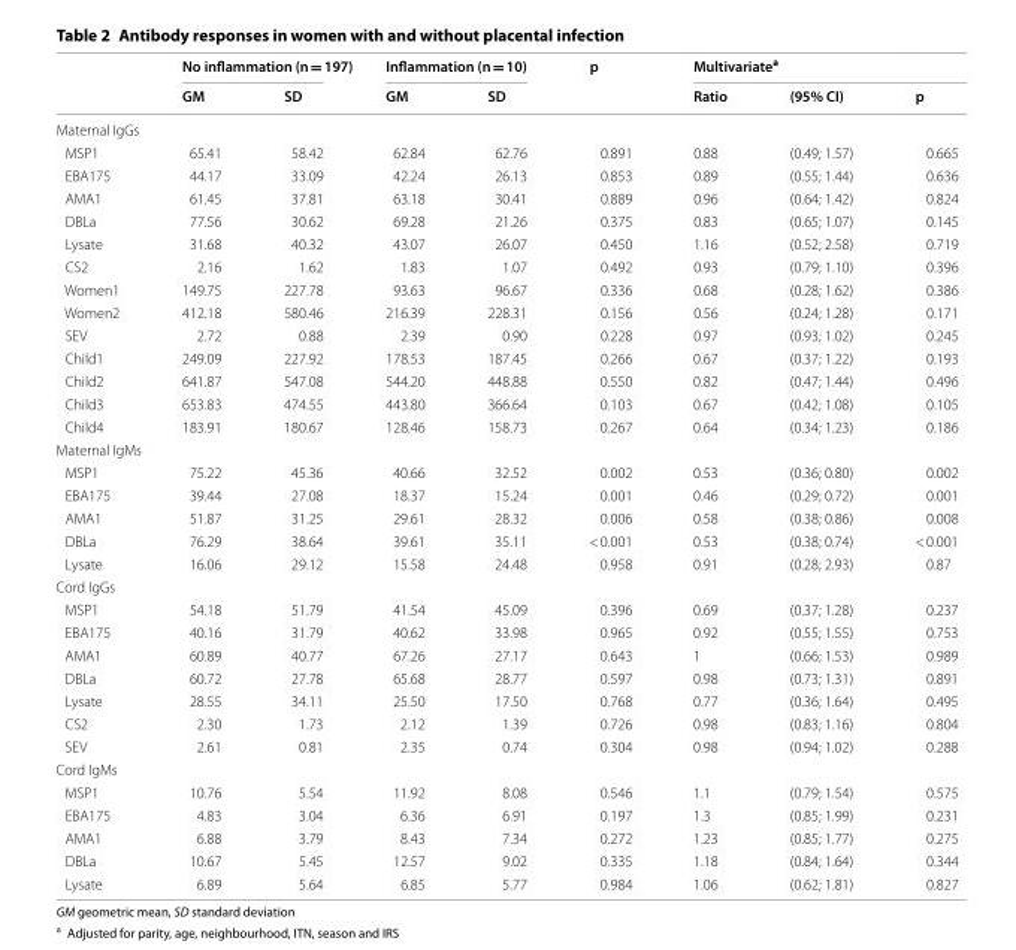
<table><thead><tr><td rowspan="2"></td><td colspan="2">No inflammation (n = 197)</td><td colspan="2">Inflammation (n = 10)</td><td rowspan="2">p</td><td colspan="3">Multivariate<sup>a</sup></td></tr><tr><td>GM</td><td>SD</td><td>GM</td><td>SD</td><td>Ratio</td><td>(95% CI)</td><td>p</td></tr></thead><tbody><tr><td colspan="9">Maternal IgGs</td></tr><tr><td>MSP1</td><td>65.41</td><td>58.42</td><td>62.84</td><td>62.76</td><td>0.891</td><td>0.88</td><td>(0.49; 1.57)</td><td>0.665</td></tr><tr><td>EBA175</td><td>44.17</td><td>33.09</td><td>42.24</td><td>26.13</td><td>0.853</td><td>0.89</td><td>(0.55; 1.44)</td><td>0.636</td></tr><tr><td>AMA1</td><td>61.45</td><td>37.81</td><td>63.18</td><td>30.41</td><td>0.889</td><td>0.96</td><td>(0.64; 1.42)</td><td>0.824</td></tr><tr><td>DBLa</td><td>77.56</td><td>30.62</td><td>69.28</td><td>21.26</td><td>0.375</td><td>0.83</td><td>(0.65; 1.07)</td><td>0.145</td></tr><tr><td>Lysate</td><td>31.68</td><td>40.32</td><td>43.07</td><td>26.07</td><td>0.450</td><td>1.16</td><td>(0.52; 2.58)</td><td>0.719</td></tr><tr><td>CS2</td><td>2.16</td><td>1.62</td><td>1.83</td><td>1.07</td><td>0.492</td><td>0.93</td><td>(0.79; 1.10)</td><td>0.396</td></tr><tr><td>Women1</td><td>149.75</td><td>227.78</td><td>93.63</td><td>96.67</td><td>0.336</td><td>0.68</td><td>(0.28; 1.62)</td><td>0.386</td></tr><tr><td>Women2</td><td>412.18</td><td>580.46</td><td>216.39</td><td>228.31</td><td>0.156</td><td>0.56</td><td>(0.24; 1.28)</td><td>0.171</td></tr><tr><td>SEV</td><td>2.72</td><td>0.88</td><td>2.39</td><td>0.90</td><td>0.228</td><td>0.97</td><td>(0.93; 1.02)</td><td>0.245</td></tr><tr><td>Child1</td><td>249.09</td><td>227.92</td><td>178.53</td><td>187.45</td><td>0.266</td><td>0.67</td><td>(0.37; 1.22)</td><td>0.193</td></tr><tr><td>Child2</td><td>641.87</td><td>547.08</td><td>544.20</td><td>448.88</td><td>0.550</td><td>0.82</td><td>(0.47; 1.44)</td><td>0.496</td></tr><tr><td>Child3</td><td>653.83</td><td>474.55</td><td>443.80</td><td>366.64</td><td>0.103</td><td>0.67</td><td>(0.42; 1.08)</td><td>0.105</td></tr><tr><td>Child4</td><td>183.91</td><td>180.67</td><td>128.46</td><td>158.73</td><td>0.267</td><td>0.64</td><td>(0.34; 1.23)</td><td>0.186</td></tr><tr><td colspan="9">Maternal IgMs</td></tr><tr><td>MSP1</td><td>75.22</td><td>45.36</td><td>40.66</td><td>32.52</td><td>0.002</td><td>0.53</td><td>(0.36; 0.80)</td><td>0.002</td></tr><tr><td>EBA175</td><td>39.44</td><td>27.08</td><td>18.37</td><td>15.24</td><td>0.001</td><td>0.46</td><td>(0.29; 0.72)</td><td>0.001</td></tr><tr><td>AMA1</td><td>51.87</td><td>31.25</td><td>29.61</td><td>28.32</td><td>0.006</td><td>0.58</td><td>(0.38; 0.86)</td><td>0.008</td></tr><tr><td>DBLa</td><td>76.29</td><td>38.64</td><td>39.61</td><td>35.11</td><td>&lt; 0.001</td><td>0.53</td><td>(0.38; 0.74)</td><td>&lt; 0.001</td></tr><tr><td>Lysate</td><td>16.06</td><td>29.12</td><td>15.58</td><td>24.48</td><td>0.958</td><td>0.91</td><td>(0.28; 2.93)</td><td>0.87</td></tr><tr><td colspan="9">Cord IgGs</td></tr><tr><td>MSP1</td><td>54.18</td><td>51.79</td><td>41.54</td><td>45.09</td><td>0.396</td><td>0.69</td><td>(0.37; 1.28)</td><td>0.237</td></tr><tr><td>EBA175</td><td>40.16</td><td>31.79</td><td>40.62</td><td>33.98</td><td>0.965</td><td>0.92</td><td>(0.55; 1.55)</td><td>0.753</td></tr><tr><td>AMA1</td><td>60.89</td><td>40.77</td><td>67.26</td><td>27.17</td><td>0.643</td><td>1</td><td>(0.66; 1.53)</td><td>0.989</td></tr><tr><td>DBLa</td><td>60.72</td><td>27.78</td><td>65.68</td><td>28.77</td><td>0.597</td><td>0.98</td><td>(0.73; 1.31)</td><td>0.891</td></tr><tr><td>Lysate</td><td>28.55</td><td>34.11</td><td>25.50</td><td>17.50</td><td>0.768</td><td>0.77</td><td>(0.36; 1.64)</td><td>0.495</td></tr><tr><td>CS2</td><td>2.30</td><td>1.73</td><td>2.12</td><td>1.39</td><td>0.726</td><td>0.98</td><td>(0.83; 1.16)</td><td>0.804</td></tr><tr><td>SEV</td><td>2.61</td><td>0.81</td><td>2.35</td><td>0.74</td><td>0.304</td><td>0.98</td><td>(0.94; 1.02)</td><td>0.288</td></tr><tr><td colspan="9">Cord IgMs</td></tr><tr><td>MSP1</td><td>10.76</td><td>5.54</td><td>11.92</td><td>8.08</td><td>0.546</td><td>1.1</td><td>(0.79; 1.54)</td><td>0.575</td></tr><tr><td>EBA175</td><td>4.83</td><td>3.04</td><td>6.36</td><td>6.91</td><td>0.197</td><td>1.3</td><td>(0.85; 1.99)</td><td>0.231</td></tr><tr><td>AMA1</td><td>6.88</td><td>3.79</td><td>8.43</td><td>7.34</td><td>0.272</td><td>1.23</td><td>(0.85; 1.77)</td><td>0.275</td></tr><tr><td>DBLa</td><td>10.67</td><td>5.45</td><td>12.57</td><td>9.02</td><td>0.335</td><td>1.18</td><td>(0.84; 1.64)</td><td>0.344</td></tr><tr><td>Lysate</td><td>6.89</td><td>5.64</td><td>6.85</td><td>5.77</td><td>0.984</td><td>1.06</td><td>(0.62; 1.81)</td><td>0.827</td></tr></tbody></table>